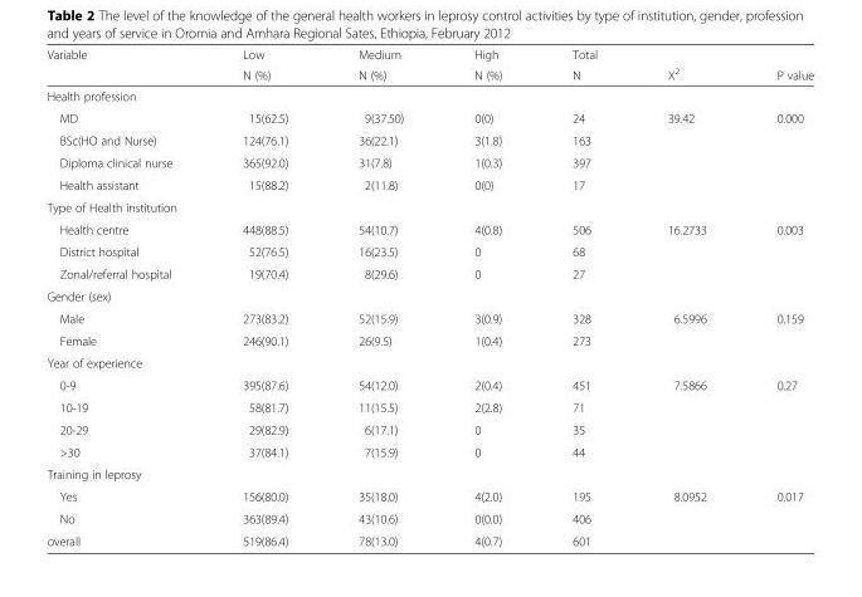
<table><thead><tr><td rowspan="2">Variable</td><td rowspan="2">Low N (%)</td><td rowspan="2">Medium N (%)</td><td rowspan="2">High N (%)</td><td rowspan="2">Total N</td><td rowspan="2">X<sup>2</sup></td><td rowspan="2">P value</td></tr><tr></tr></thead><tbody><tr><td colspan="7">Health profession</td></tr><tr><td>MD</td><td>15(62.5)</td><td>9(37.50)</td><td>0(0)</td><td>24</td><td rowspan="4">39.42</td><td rowspan="4">0.000</td></tr><tr><td>BSc(HO and Nurse)</td><td>124(76.1)</td><td>36(22.1)</td><td>3(1.8)</td><td>163</td></tr><tr><td>Diploma clinical nurse</td><td>365(92.0)</td><td>31(7.8)</td><td>1(0.3)</td><td>397</td></tr><tr><td>Health assistant</td><td>15(88.2)</td><td>2(11.8)</td><td>0(0)</td><td>17</td></tr><tr><td colspan="7">Type of Health institution</td></tr><tr><td>Health centre</td><td>448(88.5)</td><td>54(10.7)</td><td>4(0.8)</td><td>506</td><td rowspan="3">16.2733</td><td rowspan="3">0.003</td></tr><tr><td>District hospital</td><td>52(76.5)</td><td>16(23.5)</td><td>0</td><td>68</td></tr><tr><td>Zonal/referral hospital</td><td>19(70.4)</td><td>8(29.6)</td><td>0</td><td>27</td></tr><tr><td colspan="7">Gender (sex)</td></tr><tr><td>Male</td><td>273(83.2)</td><td>52(15.9)</td><td>3(0.9)</td><td>328</td><td rowspan="2">6.5996</td><td rowspan="2">0.159</td></tr><tr><td>Female</td><td>246(90.1)</td><td>26(9.5)</td><td>1(0.4)</td><td>273</td></tr><tr><td colspan="7">Year of experience</td></tr><tr><td>0-9</td><td>395(87.6)</td><td>54(12.0)</td><td>2(0.4)</td><td>451</td><td rowspan="4">7.5866</td><td rowspan="4">0.27</td></tr><tr><td>10-19</td><td>58(81.7)</td><td>11(15.5)</td><td>2(2.8)</td><td>71</td></tr><tr><td>20-29</td><td>29(82.9)</td><td>6(17.1)</td><td>0</td><td>35</td></tr><tr><td>&gt;30</td><td>37(84.1)</td><td>7(15.9)</td><td>0</td><td>44</td></tr><tr><td colspan="7">Training in leprosy</td></tr><tr><td>Yes</td><td>156(80.0)</td><td>35(18.0)</td><td>4(2.0)</td><td>195</td><td rowspan="2">8.0952</td><td rowspan="2">0.017</td></tr><tr><td>No</td><td>363(89.4)</td><td>43(10.6)</td><td>0(0.0)</td><td>406</td></tr><tr><td>overall</td><td>519(86.4)</td><td>78(13.0)</td><td>4(0.7)</td><td>601</td><td colspan="2"></td></tr></tbody></table>